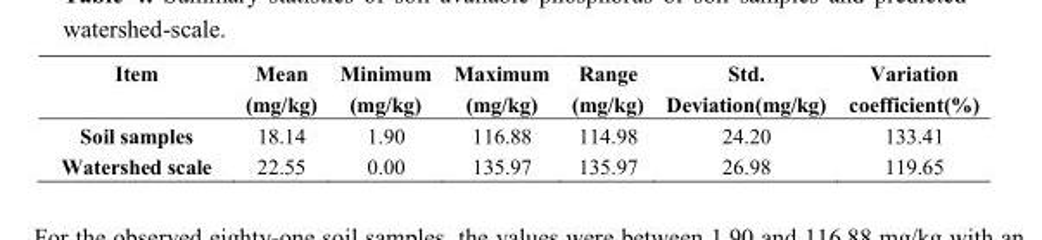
<table><thead><tr><td>Item</td><td>Mean (mg/kg)</td><td>Minimum (mg/kg)</td><td>Maximum (mg/kg)</td><td>Range (mg/kg)</td><td>Std. Deviation(mg/kg)</td><td>Variation coefficient(%)</td></tr></thead><tbody><tr><td>Soil samples</td><td>18.14</td><td>1.90</td><td>116.88</td><td>114.98</td><td>24.20</td><td>133.41</td></tr><tr><td>Watershed scale</td><td>22.55</td><td>0.00</td><td>135.97</td><td>135.97</td><td>26.98</td><td>119.65</td></tr></tbody></table>